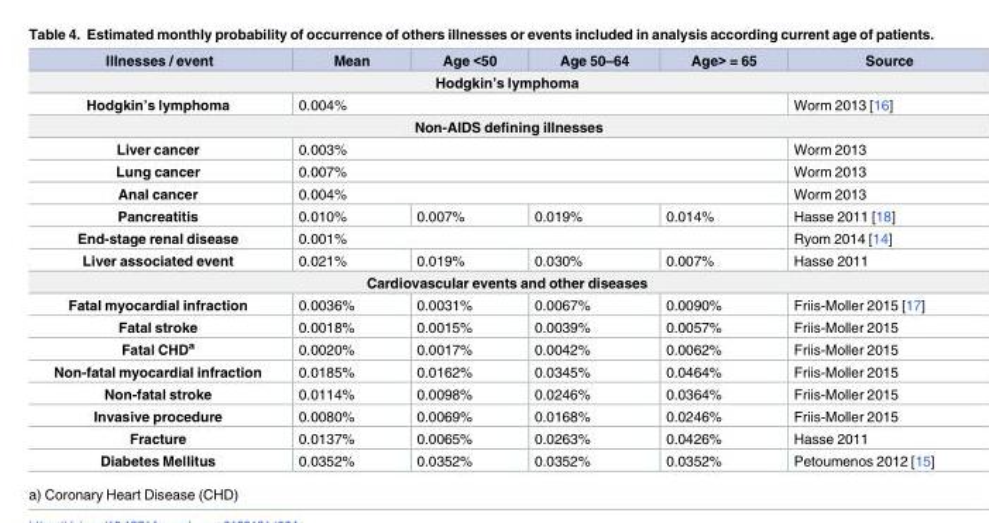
<table><thead><tr><td>Illnesses / event</td><td>Mean</td><td>Age &lt;50</td><td>Age 50–64</td><td>Age&gt; = 65</td><td>Source</td></tr></thead><tbody><tr><td colspan="6">Hodgkin’s lymphoma</td></tr><tr><td>Hodgkin’s lymphoma</td><td colspan="4">0.004%</td><td>Worm 2013 [16]</td></tr><tr><td colspan="6">Non-AIDS defining illnesses</td></tr><tr><td>Liver cancer</td><td colspan="4">0.003%</td><td>Worm 2013</td></tr><tr><td>Lung cancer</td><td colspan="4">0.007%</td><td>Worm 2013</td></tr><tr><td>Anal cancer</td><td colspan="4">0.004%</td><td>Worm 2013</td></tr><tr><td>Pancreatitis</td><td>0.010%</td><td>0.007%</td><td>0.019%</td><td>0.014%</td><td>Hasse 2011 [18]</td></tr><tr><td>End-stage renal disease</td><td colspan="4">0.001%</td><td>Ryom 2014 [14]</td></tr><tr><td>Liver associated event</td><td>0.021%</td><td>0.019%</td><td>0.030%</td><td>0.007%</td><td>Hasse 2011</td></tr><tr><td colspan="6">Cardiovascular events and other diseases</td></tr><tr><td>Fatal myocardial infraction</td><td>0.0036%</td><td>0.0031%</td><td>0.0067%</td><td>0.0090%</td><td>Friis-Moller 2015 [17]</td></tr><tr><td>Fatal stroke</td><td>0.0018%</td><td>0.0015%</td><td>0.0039%</td><td>0.0057%</td><td>Friis-Moller 2015</td></tr><tr><td>Fatal CHD<sup>a</sup></td><td>0.0020%</td><td>0.0017%</td><td>0.0042%</td><td>0.0062%</td><td>Friis-Moller 2015</td></tr><tr><td>Non-fatal myocardial infraction</td><td>0.0185%</td><td>0.0162%</td><td>0.0345%</td><td>0.0464%</td><td>Friis-Moller 2015</td></tr><tr><td>Non-fatal stroke</td><td>0.0114%</td><td>0.0098%</td><td>0.0246%</td><td>0.0364%</td><td>Friis-Moller 2015</td></tr><tr><td>Invasive procedure</td><td>0.0080%</td><td>0.0069%</td><td>0.0168%</td><td>0.0246%</td><td>Friis-Moller 2015</td></tr><tr><td>Fracture</td><td>0.0137%</td><td>0.0065%</td><td>0.0263%</td><td>0.0426%</td><td>Hasse 2011</td></tr><tr><td>Diabetes Mellitus</td><td>0.0352%</td><td>0.0352%</td><td>0.0352%</td><td>0.0352%</td><td>Petoumenos 2012 [15]</td></tr></tbody></table>